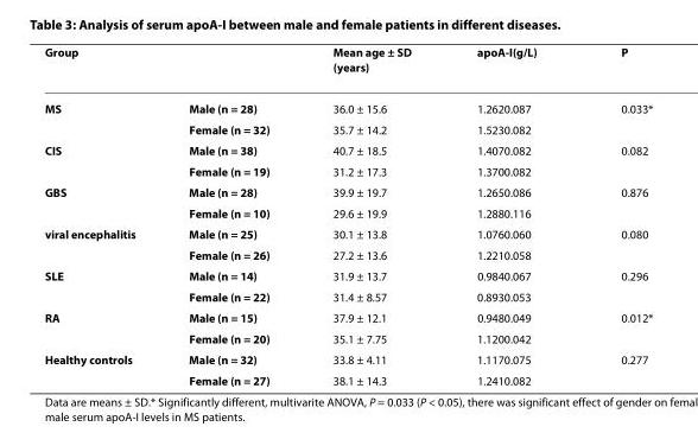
<table><thead><tr><td>Group</td><td></td><td>Mean age ± SD (years)</td><td>apoA-I(g/L)</td><td>P</td></tr></thead><tbody><tr><td rowspan="2">MS</td><td>Male (n = 28)</td><td>36.0 ± 15.6</td><td>1.2620.087</td><td>0.033*</td></tr><tr><td>Female (n = 32)</td><td>35.7 ± 14.2</td><td>1.5230.082</td><td></td></tr><tr><td rowspan="2">CIS</td><td>Male (n = 38)</td><td>40.7 ± 18.5</td><td>1.4070.082</td><td>0.082</td></tr><tr><td>Female (n = 19)</td><td>31.2 ± 17.3</td><td>1.3700.082</td><td></td></tr><tr><td rowspan="2">GBS</td><td>Male (n = 28)</td><td>39.9 ± 19.7</td><td>1.2650.086</td><td>0.876</td></tr><tr><td>Female (n = 10)</td><td>29.6 ± 19.9</td><td>1.2880.116</td><td></td></tr><tr><td rowspan="2">viral encephalitis</td><td>Male (n = 25)</td><td>30.1 ± 13.8</td><td>1.0760.060</td><td>0.080</td></tr><tr><td>Female (n = 26)</td><td>27.2 ± 13.6</td><td>1.2210.058</td><td></td></tr><tr><td rowspan="2">SLE</td><td>Male (n = 14)</td><td>31.9 ± 13.7</td><td>0.9840.067</td><td>0.296</td></tr><tr><td>Female (n = 22)</td><td>31.4 ± 8.57</td><td>0.8930.053</td><td></td></tr><tr><td rowspan="2">RA</td><td>Male (n = 15)</td><td>37.9 ± 12.1</td><td>0.9480.049</td><td>0.012*</td></tr><tr><td>Female (n = 20)</td><td>35.1 ± 7.75</td><td>1.1200.042</td><td></td></tr><tr><td rowspan="2">Healthy controls</td><td>Male (n = 32)</td><td>33.8 ± 4.11</td><td>1.1170.075</td><td>0.277</td></tr><tr><td>Female (n = 27)</td><td>38.1 ± 14.3</td><td>1.2410.082</td><td></td></tr></tbody></table>